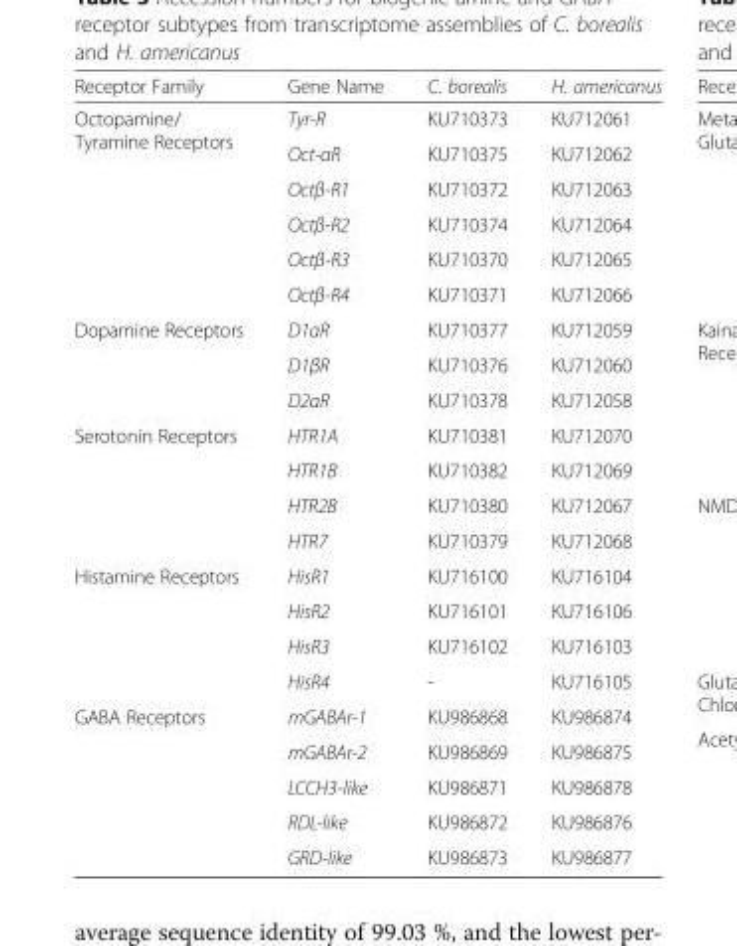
<table><thead><tr><td>Receptor Family</td><td>Gene Name</td><td>C. borealis</td><td>H. americanus</td></tr></thead><tbody><tr><td rowspan="6">Octopamine/ Tyramine Receptors</td><td>Tyr-R</td><td>KU710373</td><td>KU712061</td></tr><tr><td>Oct-αR</td><td>KU710375</td><td>KU712062</td></tr><tr><td>Octβ-R1</td><td>KU710372</td><td>KU712063</td></tr><tr><td>Octβ-R2</td><td>KU710374</td><td>KU712064</td></tr><tr><td>Octβ-R3</td><td>KU710370</td><td>KU712065</td></tr><tr><td>Octβ-R4</td><td>KU710371</td><td>KU712066</td></tr><tr><td rowspan="3">Dopamine Receptors</td><td>D1αR</td><td>KU710377</td><td>KU712059</td></tr><tr><td>D1βR</td><td>KU710376</td><td>KU712060</td></tr><tr><td>D2αR</td><td>KU710378</td><td>KU712058</td></tr><tr><td rowspan="4">Serotonin Receptors</td><td>HTR1A</td><td>KU710381</td><td>KU712070</td></tr><tr><td>HTR1B</td><td>KU710382</td><td>KU712069</td></tr><tr><td>HTR2B</td><td>KU710380</td><td>KU712067</td></tr><tr><td>HTR7</td><td>KU710379</td><td>KU712068</td></tr><tr><td rowspan="4">Histamine Receptors</td><td>HisR1</td><td>KU716100</td><td>KU716104</td></tr><tr><td>HisR2</td><td>KU716101</td><td>KU716106</td></tr><tr><td>HisR3</td><td>KU716102</td><td>KU716103</td></tr><tr><td>HisR4</td><td>-</td><td>KU716105</td></tr><tr><td rowspan="5">GABA Receptors</td><td>mGABAr-1</td><td>KU986868</td><td>KU986874</td></tr><tr><td>mGABAr-2</td><td>KU986869</td><td>KU986875</td></tr><tr><td>LCCH3-like</td><td>KU986871</td><td>KU986878</td></tr><tr><td>RDL-like</td><td>KU986872</td><td>KU986876</td></tr><tr><td>GRD-like</td><td>KU986873</td><td>KU986877</td></tr></tbody></table>